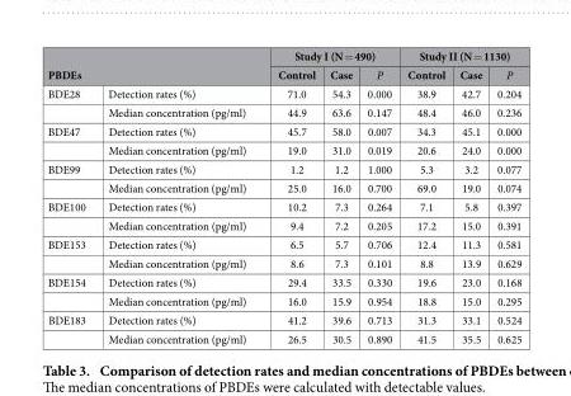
<table><thead><tr><td></td><td></td><td colspan="3">Study I (N = 490)</td><td colspan="3">Study II (N = 1130)</td></tr><tr><td colspan="2">PBDEs</td><td>Control</td><td>Case</td><td>P</td><td>Control</td><td>Case</td><td>P</td></tr></thead><tbody><tr><td rowspan="2">BDE28</td><td>Detection rates (%)</td><td>71.0</td><td>54.3</td><td>0.000</td><td>38.9</td><td>42.7</td><td>0.204</td></tr><tr><td>Median concentration (pg/ml)</td><td>44.9</td><td>63.6</td><td>0.147</td><td>48.4</td><td>46.0</td><td>0.236</td></tr><tr><td rowspan="2">BDE47</td><td>Detection rates (%)</td><td>45.7</td><td>58.0</td><td>0.007</td><td>34.3</td><td>45.1</td><td>0.000</td></tr><tr><td>Median concentration (pg/ml)</td><td>19.0</td><td>31.0</td><td>0.019</td><td>20.6</td><td>24.0</td><td>0.000</td></tr><tr><td rowspan="2">BDE99</td><td>Detection rates (%)</td><td>1.2</td><td>1.2</td><td>1.000</td><td>5.3</td><td>3.2</td><td>0.077</td></tr><tr><td>Median concentration (pg/ml)</td><td>25.0</td><td>16.0</td><td>0.700</td><td>69.0</td><td>19.0</td><td>0.074</td></tr><tr><td rowspan="2">BDE100</td><td>Detection rates (%)</td><td>10.2</td><td>7.3</td><td>0.264</td><td>7.1</td><td>5.8</td><td>0.397</td></tr><tr><td>Median concentration (pg/ml)</td><td>9.4</td><td>7.2</td><td>0.205</td><td>17.2</td><td>15.0</td><td>0.391</td></tr><tr><td rowspan="2">BDE153</td><td>Detection rates (%)</td><td>6.5</td><td>5.7</td><td>0.706</td><td>12.4</td><td>11.3</td><td>0.581</td></tr><tr><td>Median concentration (pg/ml)</td><td>8.6</td><td>7.3</td><td>0.101</td><td>8.8</td><td>13.9</td><td>0.629</td></tr><tr><td rowspan="2">BDE154</td><td>Detection rates (%)</td><td>29.4</td><td>33.5</td><td>0.330</td><td>19.6</td><td>23.0</td><td>0.168</td></tr><tr><td>Median concentration (pg/ml)</td><td>16.0</td><td>15.9</td><td>0.954</td><td>18.8</td><td>15.0</td><td>0.295</td></tr><tr><td rowspan="2">BDE183</td><td>Detection rates (%)</td><td>41.2</td><td>39.6</td><td>0.713</td><td>31.3</td><td>33.1</td><td>0.524</td></tr><tr><td>Median concentration (pg/ml)</td><td>26.5</td><td>30.5</td><td>0.890</td><td>41.5</td><td>35.5</td><td>0.625</td></tr></tbody></table>